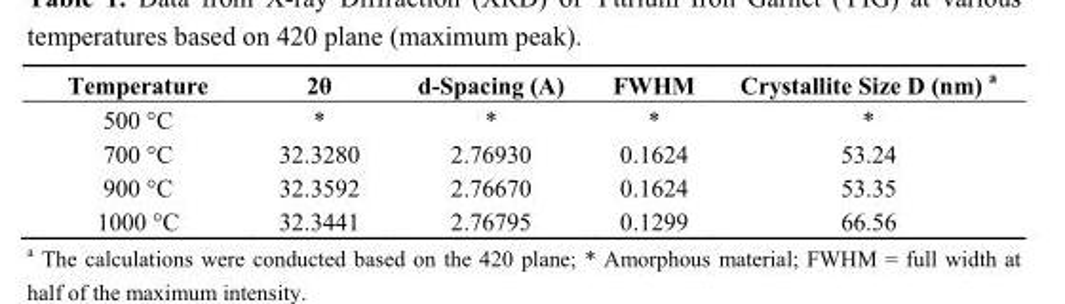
<table><thead><tr><td>Temperature</td><td>2θ</td><td>d-Spacing (A)</td><td>FWHM</td><td>Crystallite Size D (nm) <sup>a</sup></td></tr></thead><tbody><tr><td>500 °C</td><td>*</td><td>*</td><td>*</td><td>*</td></tr><tr><td>700 °C</td><td>32.3280</td><td>2.76930</td><td>0.1624</td><td>53.24</td></tr><tr><td>900 °C</td><td>32.3592</td><td>2.76670</td><td>0.1624</td><td>53.35</td></tr><tr><td>1000 °C</td><td>32.3441</td><td>2.76795</td><td>0.1299</td><td>66.56</td></tr></tbody></table>